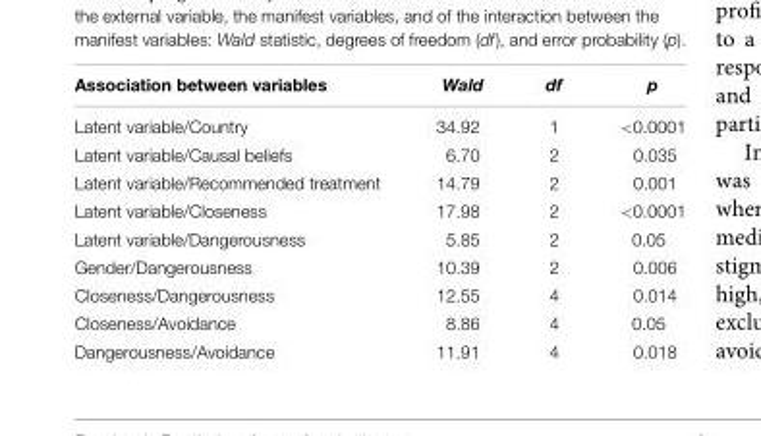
<table><thead><tr><td>Association between variables</td><td>Wald</td><td>df</td><td>p</td></tr></thead><tbody><tr><td>Latent variable/Country</td><td>34.92</td><td>1</td><td>&lt;0.0001</td></tr><tr><td>Latent variable/Causal beliefs</td><td>6.70</td><td>2</td><td>0.035</td></tr><tr><td>Latent variable/Recommended treatment</td><td>14.79</td><td>2</td><td>0.001</td></tr><tr><td>Latent variable/Closeness</td><td>17.98</td><td>2</td><td>&lt;0.0001</td></tr><tr><td>Latent variable/Dangerousness</td><td>5.85</td><td>2</td><td>0.05</td></tr><tr><td>Gender/Dangerousness</td><td>10.39</td><td>2</td><td>0.006</td></tr><tr><td>Closeness/Dangerousness</td><td>12.55</td><td>4</td><td>0.014</td></tr><tr><td>Closeness/Avoidance</td><td>8.86</td><td>4</td><td>0.05</td></tr><tr><td>Dangerousness/Avoidance</td><td>11.91</td><td>4</td><td>0.018</td></tr></tbody></table>